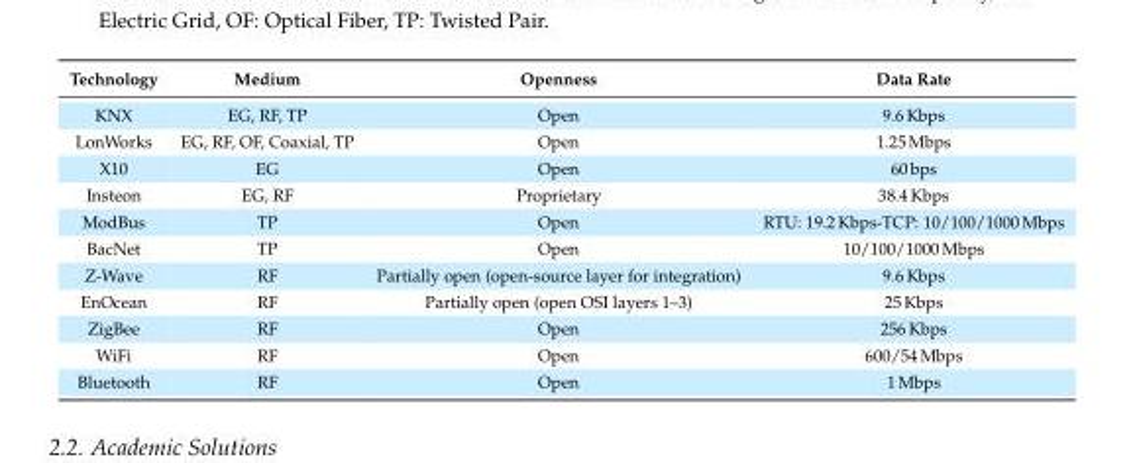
<table><thead><tr><td>Technology</td><td>Medium</td><td>Openness</td><td>Data Rate</td></tr></thead><tbody><tr><td>KNX</td><td>EG, RF, TP</td><td>Open</td><td>9.6 Kbps</td></tr><tr><td>LonWorks</td><td>EG, RF, OF, Coaxial, TP</td><td>Open</td><td>1.25 Mbps</td></tr><tr><td>X10</td><td>EG</td><td>Open</td><td>60 bps</td></tr><tr><td>Insteon</td><td>EG, RF</td><td>Proprietary</td><td>38.4 Kbps</td></tr><tr><td>ModBus</td><td>TP</td><td>Open</td><td>RTU: 19.2 Kbps-TCP: 10/100/1000 Mbps</td></tr><tr><td>BacNet</td><td>TP</td><td>Open</td><td>10/100/1000 Mbps</td></tr><tr><td>Z-Wave</td><td>RF</td><td>Partially open (open-source layer for integration)</td><td>9.6 Kbps</td></tr><tr><td>EnOcean</td><td>RF</td><td>Partially open (open OSI layers 1–3)</td><td>25 Kbps</td></tr><tr><td>ZigBee</td><td>RF</td><td>Open</td><td>256 Kbps</td></tr><tr><td>WiFi</td><td>RF</td><td>Open</td><td>600/54 Mbps</td></tr><tr><td>Bluetooth</td><td>RF</td><td>Open</td><td>1 Mbps</td></tr></tbody></table>